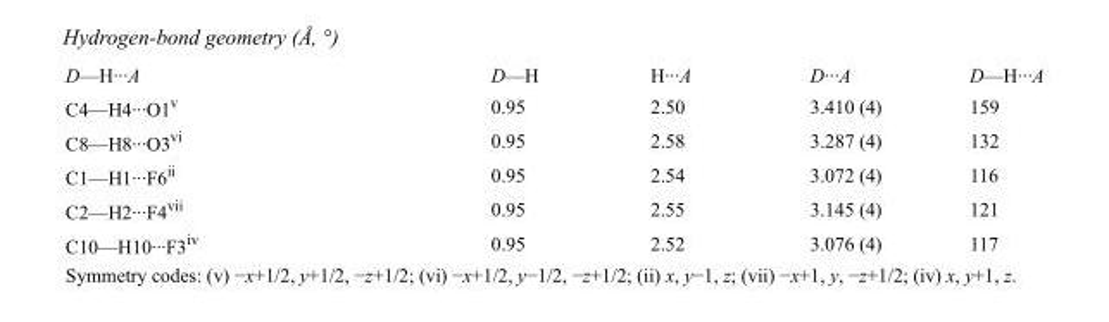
<table><tbody><tr><td>D—H···A</td><td>D—H</td><td>H···A</td><td>D···A</td><td>D—H···A</td></tr><tr><td>C4—H4···O1<sup>v</sup></td><td>0.95</td><td>2.50</td><td>3.410 (4)</td><td>159</td></tr><tr><td>C8—H8···O3<sup>vi</sup></td><td>0.95</td><td>2.58</td><td>3.287 (4)</td><td>132</td></tr><tr><td>C1—H1···F6<sup>ii</sup></td><td>0.95</td><td>2.54</td><td>3.072 (4)</td><td>116</td></tr><tr><td>C2—H2···F4<sup>vii</sup></td><td>0.95</td><td>2.55</td><td>3.145 (4)</td><td>121</td></tr><tr><td>C10—H10···F3<sup>iv</sup></td><td>0.95</td><td>2.52</td><td>3.076 (4)</td><td>117</td></tr></tbody></table>